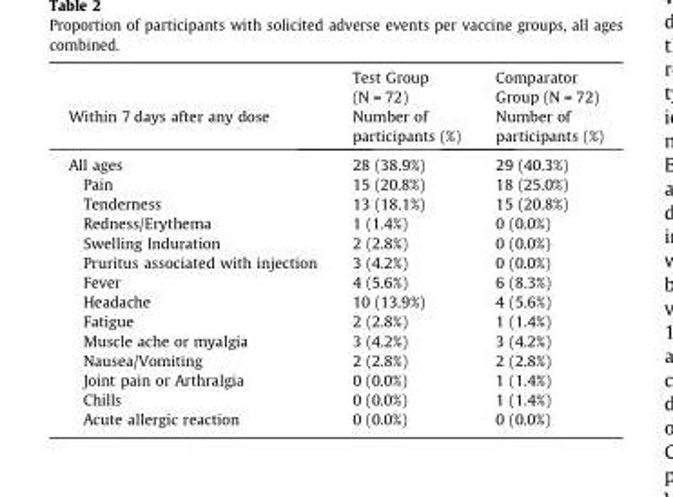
<table><thead><tr><td rowspan="2">Within 7 days after any dose</td><td rowspan="2">Test Group (N = 72) Number of participants (%)</td><td rowspan="2">Comparator Group (N = 72) Number of participants (%)</td></tr><tr></tr></thead><tbody><tr><td>All ages</td><td>28 (38.9%)</td><td>29 (40.3%)</td></tr><tr><td>Pain</td><td>15 (20.8%)</td><td>18 (25.0%)</td></tr><tr><td>Tenderness</td><td>13 (18.1%)</td><td>15 (20.8%)</td></tr><tr><td>Redness/Erythema</td><td>1 (1.4%)</td><td>0 (0.0%)</td></tr><tr><td>Swelling Induration</td><td>2 (2.8%)</td><td>0 (0.0%)</td></tr><tr><td>Pruritus associated with injection</td><td>3 (4.2%)</td><td>0 (0.0%)</td></tr><tr><td>Fever</td><td>4 (5.6%)</td><td>6 (8.3%)</td></tr><tr><td>Headache</td><td>10 (13.9%)</td><td>4 (5.6%)</td></tr><tr><td>Fatigue</td><td>2 (2.8%)</td><td>1 (1.4%)</td></tr><tr><td>Muscle ache or myalgia</td><td>3 (4.2%)</td><td>3 (4.2%)</td></tr><tr><td>Nausea/Vomiting</td><td>2 (2.8%)</td><td>2 (2.8%)</td></tr><tr><td>Joint pain or Arthralgia</td><td>0 (0.0%)</td><td>1 (1.4%)</td></tr><tr><td>Chills</td><td>0 (0.0%)</td><td>1 (1.4%)</td></tr><tr><td>Acute allergic reaction</td><td>0 (0.0%)</td><td>0 (0.0%)</td></tr></tbody></table>